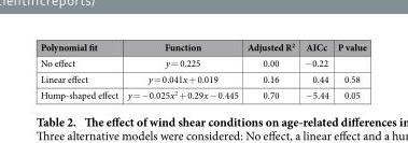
<table><thead><tr><td>Polynomial fit</td><td>Function</td><td>Adjusted R<sup>2</sup></td><td>AICc</td><td>P value</td></tr></thead><tbody><tr><td>No effect</td><td>y = 0.225</td><td>0.00</td><td>− 0.22</td><td></td></tr><tr><td>Linear effect</td><td>y = 0.041x + 0.019</td><td>0.16</td><td>0.44</td><td>0.58</td></tr><tr><td>Hump-shaped effect</td><td>y = − 0.025x<sup>2</sup> + 0.29x − 0.445</td><td>0.70</td><td>− 5.44</td><td>0.05</td></tr></tbody></table>